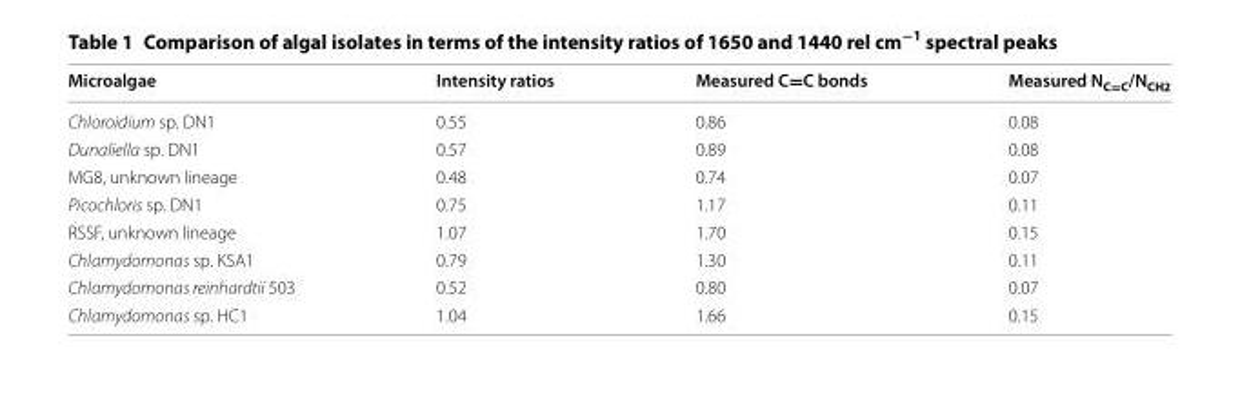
<table><thead><tr><td>Microalgae</td><td>Intensity ratios</td><td>Measured C=C bonds</td><td>Measured N<sub>C=C</sub>/N<sub>CH2</sub></td></tr></thead><tbody><tr><td>Chloroidium sp. DN1</td><td>0.55</td><td>0.86</td><td>0.08</td></tr><tr><td>Dunaliella sp. DN1</td><td>0.57</td><td>0.89</td><td>0.08</td></tr><tr><td>MG8, unknown lineage</td><td>0.48</td><td>0.74</td><td>0.07</td></tr><tr><td>Picochloris sp. DN1</td><td>0.75</td><td>1.17</td><td>0.11</td></tr><tr><td>RSSF, unknown lineage</td><td>1.07</td><td>1.70</td><td>0.15</td></tr><tr><td>Chlamydomonas sp. KSA1</td><td>0.79</td><td>1.30</td><td>0.11</td></tr><tr><td>Chlamydomonas reinhardtii 503</td><td>0.52</td><td>0.80</td><td>0.07</td></tr><tr><td>Chlamydomonas sp. HC1</td><td>1.04</td><td>1.66</td><td>0.15</td></tr></tbody></table>